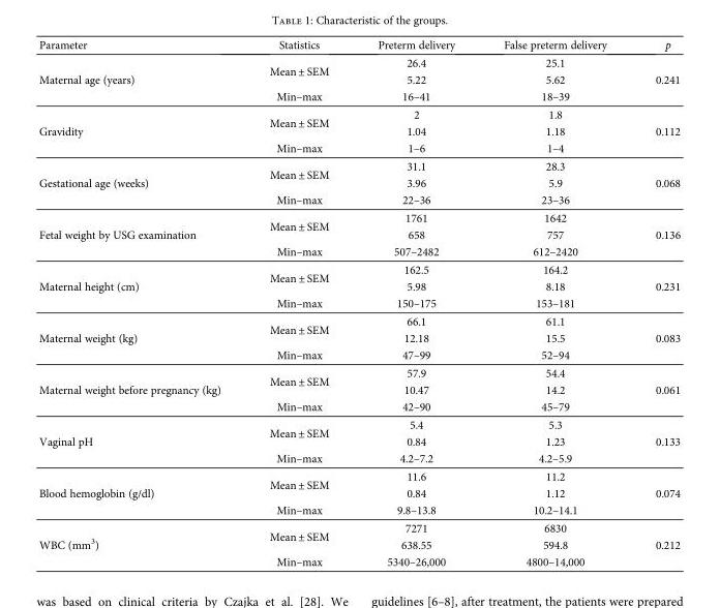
<table><thead><tr><td>Parameter</td><td>Statistics</td><td>Preterm delivery</td><td>False preterm delivery</td><td>p</td></tr></thead><tbody><tr><td rowspan="3">Maternal age (years)</td><td rowspan="2">Mean ± SEM</td><td>26.4</td><td>25.1</td><td rowspan="3">0.241</td></tr><tr><td>5.22</td><td>5.62</td></tr><tr><td>Min–max</td><td>16–41</td><td>18–39</td></tr><tr><td rowspan="3">Gravidity</td><td rowspan="2">Mean ± SEM</td><td>2</td><td>1.8</td><td rowspan="3">0.112</td></tr><tr><td>1.04</td><td>1.18</td></tr><tr><td>Min–max</td><td>1–6</td><td>1–4</td></tr><tr><td rowspan="3">Gestational age (weeks)</td><td rowspan="2">Mean ± SEM</td><td>31.1</td><td>28.3</td><td rowspan="3">0.068</td></tr><tr><td>3.96</td><td>5.9</td></tr><tr><td>Min–max</td><td>22–36</td><td>23–36</td></tr><tr><td rowspan="3">Fetal weight by USG examination</td><td rowspan="2">Mean ± SEM</td><td>1761</td><td>1642</td><td rowspan="3">0.136</td></tr><tr><td>658</td><td>757</td></tr><tr><td>Min–max</td><td>507–2482</td><td>612–2420</td></tr><tr><td rowspan="3">Maternal height (cm)</td><td rowspan="2">Mean ± SEM</td><td>162.5</td><td>164.2</td><td rowspan="3">0.231</td></tr><tr><td>5.98</td><td>8.18</td></tr><tr><td>Min–max</td><td>150–175</td><td>153–181</td></tr><tr><td rowspan="3">Maternal weight (kg)</td><td rowspan="2">Mean ± SEM</td><td>66.1</td><td>61.1</td><td rowspan="3">0.083</td></tr><tr><td>12.18</td><td>15.5</td></tr><tr><td>Min–max</td><td>47–99</td><td>52–94</td></tr><tr><td rowspan="3">Maternal weight before pregnancy (kg)</td><td rowspan="2">Mean ± SEM</td><td>57.9</td><td>54.4</td><td rowspan="3">0.061</td></tr><tr><td>10.47</td><td>14.2</td></tr><tr><td>Min–max</td><td>42–90</td><td>45–79</td></tr><tr><td rowspan="3">Vaginal pH</td><td rowspan="2">Mean ± SEM</td><td>5.4</td><td>5.3</td><td rowspan="3">0.133</td></tr><tr><td>0.84</td><td>1.23</td></tr><tr><td>Min–max</td><td>4.2–7.2</td><td>4.2–5.9</td></tr><tr><td rowspan="3">Blood hemoglobin (g/dl)</td><td rowspan="2">Mean ± SEM</td><td>11.6</td><td>11.2</td><td rowspan="3">0.074</td></tr><tr><td>0.84</td><td>1.12</td></tr><tr><td>Min–max</td><td>9.8–13.8</td><td>10.2–14.1</td></tr><tr><td rowspan="3">WBC (mm<sup>3</sup>)</td><td rowspan="2">Mean ± SEM</td><td>7271</td><td>6830</td><td rowspan="3">0.212</td></tr><tr><td>638.55</td><td>594.8</td></tr><tr><td>Min–max</td><td>5340–26,000</td><td>4800–14,000</td></tr></tbody></table>